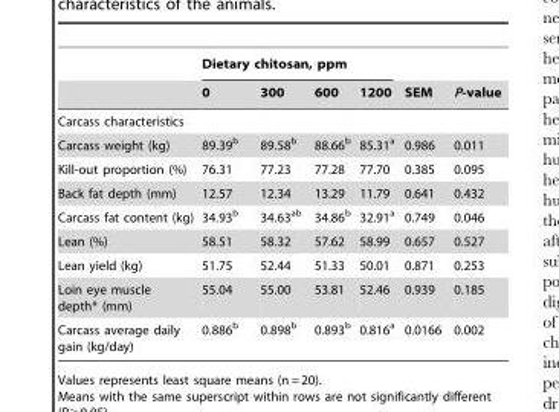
<table><thead><tr><td rowspan="2"></td><td colspan="4">Dietary chitosan, ppm</td><td rowspan="2">SEM</td><td rowspan="2">P-value</td></tr><tr><td>0</td><td>300</td><td>600</td><td>1200</td></tr></thead><tbody><tr><td colspan="7">Carcass characteristics</td></tr><tr><td>Carcass weight (kg)</td><td>89.39<sup>b</sup></td><td>89.58<sup>b</sup></td><td>88.66<sup>b</sup></td><td>85.31<sup>a</sup></td><td>0.986</td><td>0.011</td></tr><tr><td>Kill-out proportion (%)</td><td>76.31</td><td>77.23</td><td>77.28</td><td>77.70</td><td>0.385</td><td>0.095</td></tr><tr><td>Back fat depth (mm)</td><td>12.57</td><td>12.34</td><td>13.29</td><td>11.79</td><td>0.641</td><td>0.432</td></tr><tr><td>Carcass fat content (kg)</td><td>34.93<sup>b</sup></td><td>34.63<sup>ab</sup></td><td>34.86<sup>b</sup></td><td>32.91<sup>a</sup></td><td>0.749</td><td>0.046</td></tr><tr><td>Lean (%)</td><td>58.51</td><td>58.32</td><td>57.62</td><td>58.99</td><td>0.657</td><td>0.527</td></tr><tr><td>Lean yield (kg)</td><td>51.75</td><td>52.44</td><td>51.33</td><td>50.01</td><td>0.871</td><td>0.253</td></tr><tr><td>Loin eye muscle depth* (mm)</td><td>55.04</td><td>55.00</td><td>53.81</td><td>52.46</td><td>0.939</td><td>0.185</td></tr><tr><td>Carcass average daily gain (kg/day)</td><td>0.886<sup>b</sup></td><td>0.898<sup>b</sup></td><td>0.893<sup>b</sup></td><td>0.816<sup>a</sup></td><td>0.0166</td><td>0.002</td></tr></tbody></table>